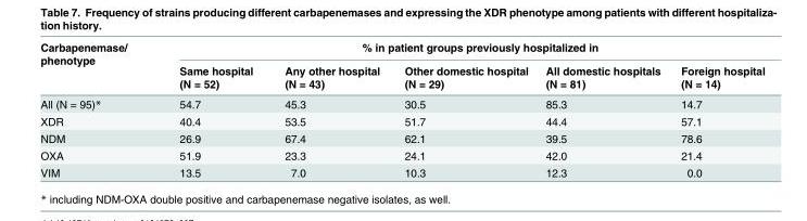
<table><thead><tr><td rowspan="2">Carbapenemase/ phenotype</td><td colspan="5">% in patient groups previously hospitalized in</td></tr><tr><td>Same hospital (N = 52)</td><td>Any other hospital (N = 43)</td><td>Other domestic hospital (N = 29)</td><td>All domestic hospitals (N = 81)</td><td>Foreign hospital (N = 14)</td></tr></thead><tbody><tr><td>All (N = 95)*</td><td>54.7</td><td>45.3</td><td>30.5</td><td>85.3</td><td>14.7</td></tr><tr><td>XDR</td><td>40.4</td><td>53.5</td><td>51.7</td><td>44.4</td><td>57.1</td></tr><tr><td>NDM</td><td>26.9</td><td>67.4</td><td>62.1</td><td>39.5</td><td>78.6</td></tr><tr><td>OXA</td><td>51.9</td><td>23.3</td><td>24.1</td><td>42.0</td><td>21.4</td></tr><tr><td>VIM</td><td>13.5</td><td>7.0</td><td>10.3</td><td>12.3</td><td>0.0</td></tr></tbody></table>